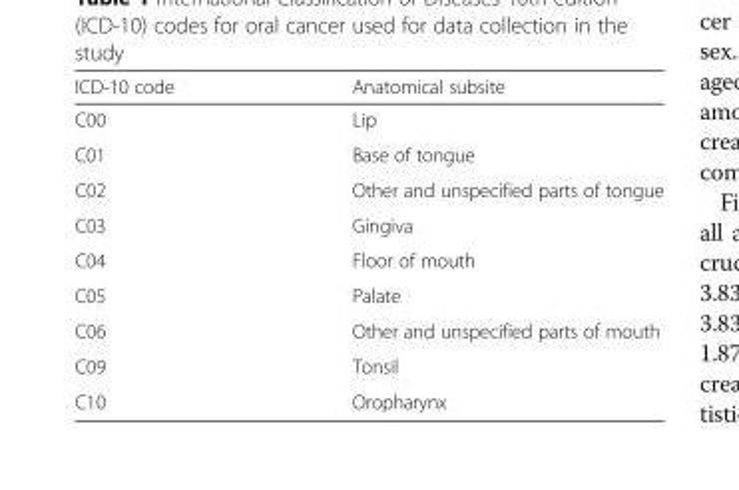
<table><thead><tr><td>ICD-10 code</td><td>Anatomical subsite</td></tr></thead><tbody><tr><td>C00</td><td>Lip</td></tr><tr><td>C01</td><td>Base of tongue</td></tr><tr><td>C02</td><td>Other and unspecified parts of tongue</td></tr><tr><td>C03</td><td>Gingiva</td></tr><tr><td>C04</td><td>Floor of mouth</td></tr><tr><td>C05</td><td>Palate</td></tr><tr><td>C06</td><td>Other and unspecified parts of mouth</td></tr><tr><td>C09</td><td>Tonsil</td></tr><tr><td>C10</td><td>Oropharynx</td></tr></tbody></table>